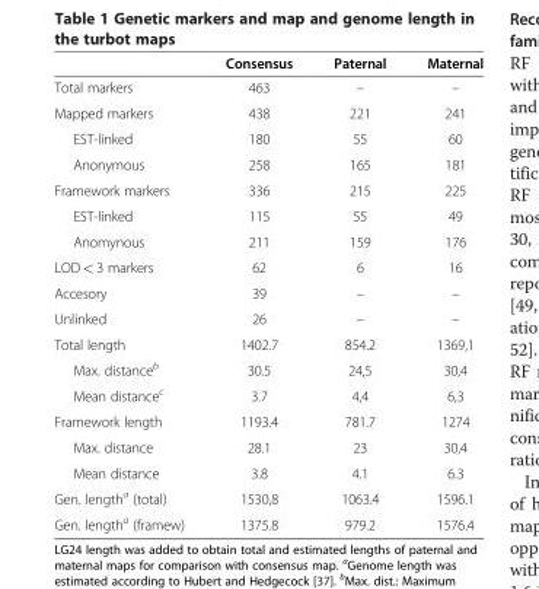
<table><thead><tr><td></td><td>Consensus</td><td>Paternal</td><td>Maternal</td></tr></thead><tbody><tr><td>Total markers</td><td>463</td><td>–</td><td>–</td></tr><tr><td>Mapped markers</td><td>438</td><td>221</td><td>241</td></tr><tr><td>EST-linked</td><td>180</td><td>55</td><td>60</td></tr><tr><td>Anonymous</td><td>258</td><td>165</td><td>181</td></tr><tr><td>Framework markers</td><td>336</td><td>215</td><td>225</td></tr><tr><td>EST-linked</td><td>115</td><td>55</td><td>49</td></tr><tr><td>Anomynous</td><td>211</td><td>159</td><td>176</td></tr><tr><td>LOD &lt; 3 markers</td><td>62</td><td>6</td><td>16</td></tr><tr><td>Accesory</td><td>39</td><td>–</td><td>–</td></tr><tr><td>Unlinked</td><td>26</td><td>–</td><td>–</td></tr><tr><td>Total length</td><td>1402.7</td><td>854.2</td><td>1369,1</td></tr><tr><td>Max. distance<sup>b</sup></td><td>30.5</td><td>24,5</td><td>30,4</td></tr><tr><td>Mean distance<sup>c</sup></td><td>3.7</td><td>4,4</td><td>6,3</td></tr><tr><td>Framework length</td><td>1193.4</td><td>781.7</td><td>1274</td></tr><tr><td>Max. distance</td><td>28.1</td><td>23</td><td>30,4</td></tr><tr><td>Mean distance</td><td>3.8</td><td>4.1</td><td>6.3</td></tr><tr><td>Gen. length<sup>a</sup> (total)</td><td>1530,8</td><td>1063.4</td><td>1596.1</td></tr><tr><td>Gen. length<sup>a</sup> (framew)</td><td>1375.8</td><td>979.2</td><td>1576.4</td></tr></tbody></table>